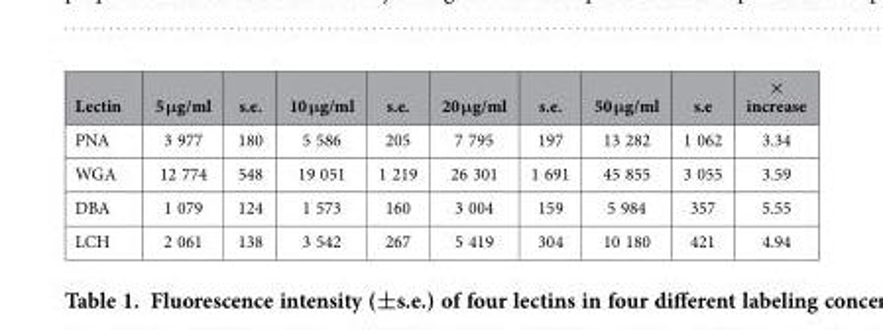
<table><thead><tr><td>Lectin</td><td>5 μg/ml</td><td>s.e.</td><td>10 μg/ml</td><td>s.e.</td><td>20 μg/ml</td><td>s.e.</td><td>50 μg/ml</td><td>s.e</td><td>× increase</td></tr></thead><tbody><tr><td>PNA</td><td>3 977</td><td>180</td><td>5 586</td><td>205</td><td>7 795</td><td>197</td><td>13 282</td><td>1 062</td><td>3.34</td></tr><tr><td>WGA</td><td>12 774</td><td>548</td><td>19 051</td><td>1 219</td><td>26 301</td><td>1 691</td><td>45 855</td><td>3 055</td><td>3.59</td></tr><tr><td>DBA</td><td>1 079</td><td>124</td><td>1 573</td><td>160</td><td>3 004</td><td>159</td><td>5 984</td><td>357</td><td>5.55</td></tr><tr><td>LCH</td><td>2 061</td><td>138</td><td>3 542</td><td>267</td><td>5 419</td><td>304</td><td>10 180</td><td>421</td><td>4.94</td></tr></tbody></table>